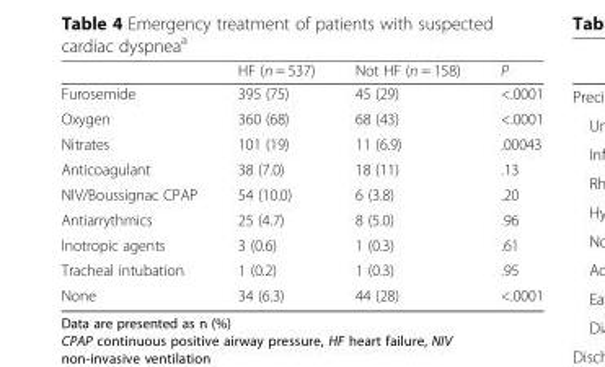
<table><thead><tr><td></td><td>HF (n = 537)</td><td>Not HF (n = 158)</td><td>P</td></tr></thead><tbody><tr><td>Furosemide</td><td>395 (75)</td><td>45 (29)</td><td>&lt;.0001</td></tr><tr><td>Oxygen</td><td>360 (68)</td><td>68 (43)</td><td>&lt;.0001</td></tr><tr><td>Nitrates</td><td>101 (19)</td><td>11 (6.9)</td><td>.00043</td></tr><tr><td>Anticoagulant</td><td>38 (7.0)</td><td>18 (11)</td><td>.13</td></tr><tr><td>NIV/Boussignac CPAP</td><td>54 (10.0)</td><td>6 (3.8)</td><td>.20</td></tr><tr><td>Antiarrythmics</td><td>25 (4.7)</td><td>8 (5.0)</td><td>.96</td></tr><tr><td>Inotropic agents</td><td>3 (0.6)</td><td>1 (0.3)</td><td>.61</td></tr><tr><td>Tracheal intubation</td><td>1 (0.2)</td><td>1 (0.3)</td><td>.95</td></tr><tr><td>None</td><td>34 (6.3)</td><td>44 (28)</td><td>&lt;.0001</td></tr></tbody></table>